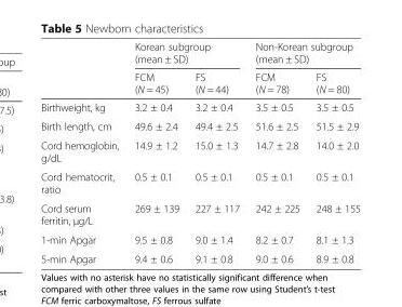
<table><thead><tr><td rowspan="2"></td><td colspan="2">Korean subgroup (mean ± SD)</td><td colspan="2">Non-Korean subgroup (mean ± SD)</td></tr><tr><td>FCM (N = 45)</td><td>FS (N = 44)</td><td>FCM (N = 78)</td><td>FS (N = 80)</td></tr></thead><tbody><tr><td>Birthweight, kg</td><td>3.2 ± 0.4</td><td>3.2 ± 0.4</td><td>3.5 ± 0.5</td><td>3.5 ± 0.5</td></tr><tr><td>Birth length, cm</td><td>49.6 ± 2.4</td><td>49.4 ± 2.5</td><td>51.6 ± 2.5</td><td>51.5 ± 2.9</td></tr><tr><td>Cord hemoglobin, g/dL</td><td>14.9 ± 1.2</td><td>15.0 ± 1.3</td><td>14.7 ± 2.8</td><td>14.0 ± 2.0</td></tr><tr><td>Cord hematocrit, ratio</td><td>0.5 ± 0.1</td><td>0.5 ± 0.1</td><td>0.5 ± 0.1</td><td>0.5 ± 0.1</td></tr><tr><td>Cord serum ferritin, μg/L</td><td>269 ± 139</td><td>227 ± 117</td><td>242 ± 225</td><td>248 ± 155</td></tr><tr><td>1-min Apgar</td><td>9.5 ± 0.8</td><td>9.0 ± 1.4</td><td>8.2 ± 0.7</td><td>8.1 ± 1.3</td></tr><tr><td>5-min Apgar</td><td>9.4 ± 0.6</td><td>9.1 ± 0.8</td><td>9.0 ± 0.6</td><td>8.9 ± 0.8</td></tr></tbody></table>